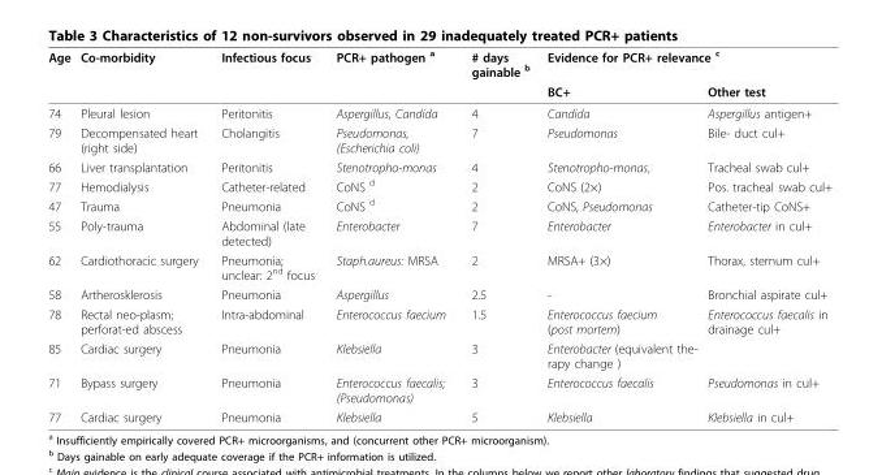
<table><thead><tr><td rowspan="2">Age</td><td rowspan="2">Co-morbidity</td><td rowspan="2">Infectious focus</td><td rowspan="2">PCR+ pathogen <sup>a</sup></td><td rowspan="2"># days gainable <sup>b</sup></td><td colspan="2">Evidence for PCR+ relevance <sup>c</sup></td></tr><tr><td>BC+</td><td>Other test</td></tr></thead><tbody><tr><td>74</td><td>Pleural lesion</td><td>Peritonitis</td><td>Aspergillus, Candida</td><td>4</td><td>Candida</td><td>Aspergillus antigen+</td></tr><tr><td>79</td><td>Decompensated heart (right side)</td><td>Cholangitis</td><td>Pseudomonas, (Escherichia coli)</td><td>7</td><td>Pseudomonas</td><td>Bile- duct cul+</td></tr><tr><td>66</td><td>Liver transplantation</td><td>Peritonitis</td><td>Stenotropho-monas</td><td>4</td><td>Stenotropho-monas,</td><td>Tracheal swab cul+</td></tr><tr><td>77</td><td>Hemodialysis</td><td>Catheter-related</td><td>CoNS <sup>d</sup></td><td>2</td><td>CoNS (2×)</td><td>Pos. tracheal swab cul+</td></tr><tr><td>47</td><td>Trauma</td><td>Pneumonia</td><td>CoNS <sup>d</sup></td><td>2</td><td>CoNS, Pseudomonas</td><td>Catheter-tip CoNS+</td></tr><tr><td>55</td><td>Poly-trauma</td><td>Abdominal (late detected)</td><td>Enterobacter</td><td>7</td><td>Enterobacter</td><td>Enterobacter in cul+</td></tr><tr><td>62</td><td>Cardiothoracic surgery</td><td>Pneumonia; unclear: 2<sup>nd</sup> focus</td><td>Staph.aureus: MRSA</td><td>2</td><td>MRSA+ (3×)</td><td>Thorax, sternum cul+</td></tr><tr><td>58</td><td>Artherosklerosis</td><td>Pneumonia</td><td>Aspergillus</td><td>2.5</td><td>-</td><td>Bronchial aspirate cul+</td></tr><tr><td>78</td><td>Rectal neo-plasm; perforat-ed abscess</td><td>Intra-abdominal</td><td>Enterococcus faecium</td><td>1.5</td><td>Enterococcus faecium (post mortem)</td><td>Enterococcus faecalis in drainage cul+</td></tr><tr><td>85</td><td>Cardiac surgery</td><td>Pneumonia</td><td>Klebsiella</td><td>3</td><td>Enterobacter (equivalent the- rapy change )</td><td></td></tr><tr><td>71</td><td>Bypass surgery</td><td>Pneumonia</td><td>Enterococcus faecalis; (Pseudomonas)</td><td>3</td><td>Enterococcus faecalis</td><td>Pseudomonas in cul+</td></tr><tr><td>77</td><td>Cardiac surgery</td><td>Pneumonia</td><td>Klebsiella</td><td>5</td><td>Klebsiella</td><td>Klebsiella in cul+</td></tr></tbody></table>